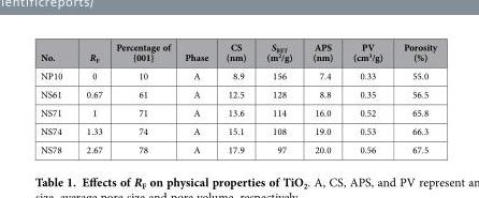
<table><thead><tr><td>No.</td><td>R<sub>F</sub></td><td>Percentage of {001}</td><td>Phase</td><td>CS (nm)</td><td>S<sub>BET</sub> (m<sup>2</sup>/g)</td><td>APS (nm)</td><td>PV (cm<sup>3</sup>/g)</td><td>Porosity (%)</td></tr></thead><tbody><tr><td>NP10</td><td>0</td><td>10</td><td>A</td><td>8.9</td><td>156</td><td>7.4</td><td>0.33</td><td>55.0</td></tr><tr><td>NS61</td><td>0.67</td><td>61</td><td>A</td><td>12.5</td><td>128</td><td>8.8</td><td>0.35</td><td>56.5</td></tr><tr><td>NS71</td><td>1</td><td>71</td><td>A</td><td>13.6</td><td>114</td><td>16.0</td><td>0.52</td><td>65.8</td></tr><tr><td>NS74</td><td>1.33</td><td>74</td><td>A</td><td>15.1</td><td>108</td><td>19.0</td><td>0.53</td><td>66.3</td></tr><tr><td>NS78</td><td>2.67</td><td>78</td><td>A</td><td>17.9</td><td>97</td><td>20.0</td><td>0.56</td><td>67.5</td></tr></tbody></table>